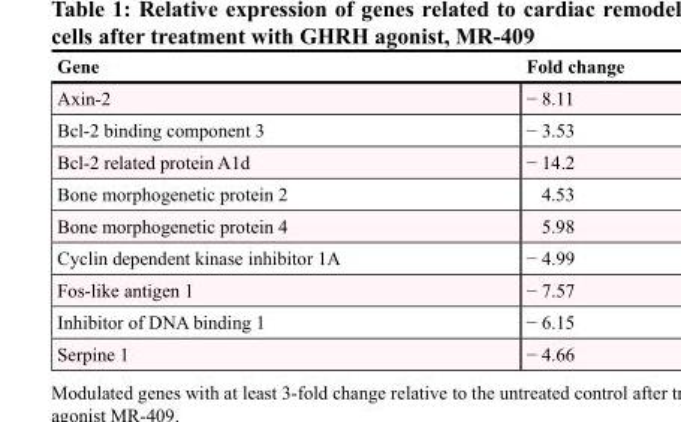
<table><thead><tr><td>Gene</td><td>Fold change</td></tr></thead><tbody><tr><td>Axin-2</td><td>− 8.11</td></tr><tr><td>Bcl-2 binding component 3</td><td>− 3.53</td></tr><tr><td>Bcl-2 related protein A1d</td><td>− 14.2</td></tr><tr><td>Bone morphogenetic protein 2</td><td>4.53</td></tr><tr><td>Bone morphogenetic protein 4</td><td>5.98</td></tr><tr><td>Cyclin dependent kinase inhibitor 1A</td><td>− 4.99</td></tr><tr><td>Fos-like antigen 1</td><td>− 7.57</td></tr><tr><td>Inhibitor of DNA binding 1</td><td>− 6.15</td></tr><tr><td>Serpine 1</td><td>− 4.66</td></tr></tbody></table>